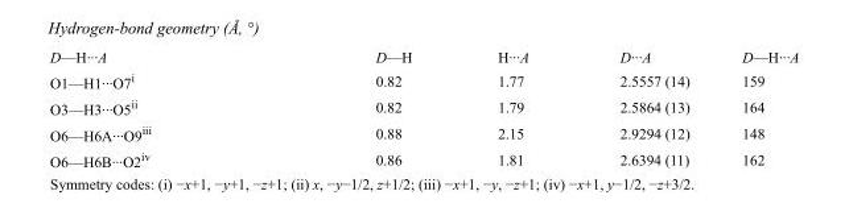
<table><tbody><tr><td>D—H···A</td><td>D—H</td><td>H···A</td><td>D···A</td><td>D—H···A</td></tr><tr><td>O1—H1···O7<sup>i</sup></td><td>0.82</td><td>1.77</td><td>2.5557 (14)</td><td>159</td></tr><tr><td>O3—H3···O5<sup>ii</sup></td><td>0.82</td><td>1.79</td><td>2.5864 (13)</td><td>164</td></tr><tr><td>O6—H6A···O9<sup>iii</sup></td><td>0.88</td><td>2.15</td><td>2.9294 (12)</td><td>148</td></tr><tr><td>O6—H6B···O2<sup>iv</sup></td><td>0.86</td><td>1.81</td><td>2.6394 (11)</td><td>162</td></tr></tbody></table>